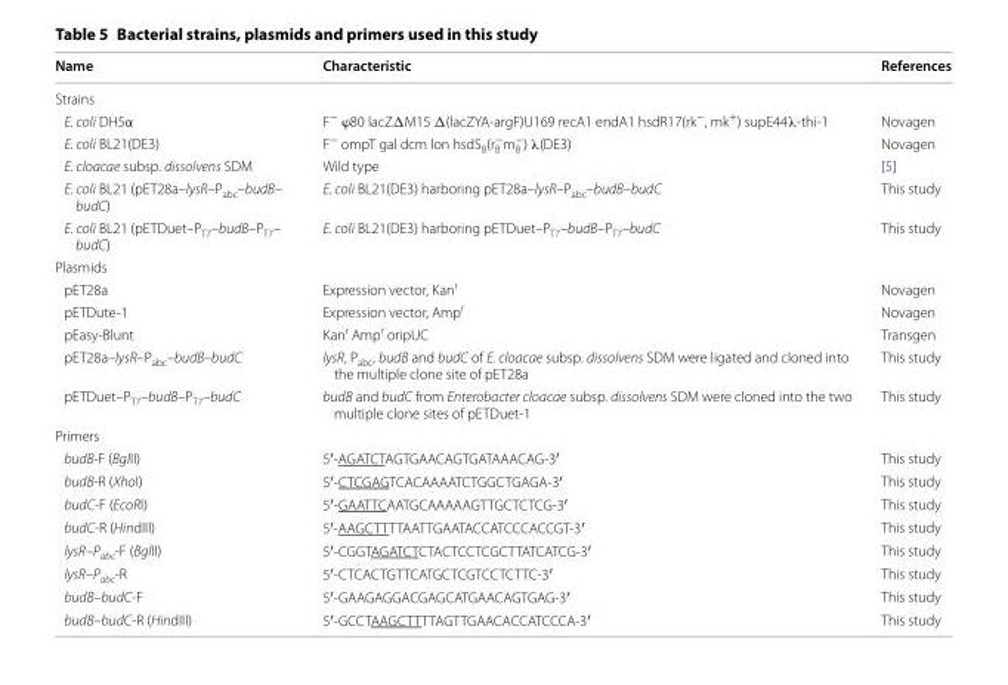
<table><thead><tr><td>Name</td><td>Characteristic</td><td>References</td></tr></thead><tbody><tr><td colspan="3">Strains</td></tr><tr><td>E. coli DH5α</td><td>F<sup>−</sup> ϕ80 lacZΔM15 Δ(lacZYA-argF)U169 recA1 endA1 hsdR17(rk<sup>−</sup>, mk<sup>+</sup>) supE44λ-thi-1</td><td>Novagen</td></tr><tr><td>E. coli BL21(DE3)</td><td>F<sup>−</sup> ompT gal dcm lon hsdS<sub>B</sub>(r<sub>B</sub> <sup>−</sup>m<sub>B</sub> <sup>−</sup>) λ(DE3)</td><td>Novagen</td></tr><tr><td>E. cloacae subsp. dissolvens SDM</td><td>Wild type</td><td>[5]</td></tr><tr><td>E. coli BL21 (pET28a–lysR–P<sub>abc</sub>–budB– budC)</td><td>E. coli BL21(DE3) harboring pET28a–lysR–P<sub>abc</sub>–budB–budC</td><td>This study</td></tr><tr><td>E. coli BL21 (pETDuet–P<sub>T7</sub>–budB–P<sub>T7</sub>– budC)</td><td>E. coli BL21(DE3) harboring pETDuet–P<sub>T7</sub>–budB–P<sub>T7</sub>–budC</td><td>This study</td></tr><tr><td colspan="3">Plasmids</td></tr><tr><td>pET28a</td><td>Expression vector, Kan<sup>r</sup></td><td>Novagen</td></tr><tr><td>pETDute-1</td><td>Expression vector, Amp<sup>r</sup></td><td>Novagen</td></tr><tr><td>pEasy-Blunt</td><td>Kan<sup>r</sup> Amp<sup>r</sup> oripUC</td><td>Transgen</td></tr><tr><td>pET28a–lysR–P<sub>abc</sub>–budB–budC</td><td>lysR, P<sub>abc</sub>, budB and budC of E. cloacae subsp. dissolvens SDM were ligated and cloned into the multiple clone site of pET28a</td><td>This study</td></tr><tr><td>pETDuet–P<sub>T7</sub>–budB–P<sub>T7</sub>–budC</td><td>budB and budC from Enterobacter cloacae subsp. dissolvens SDM were cloned into the two multiple clone sites of pETDuet-1</td><td>This study</td></tr><tr><td colspan="3">Primers</td></tr><tr><td>budB-F (BglII)</td><td>5′-AGATCTAGTGAACAGTGATAAACAG-3′</td><td>This study</td></tr><tr><td>budB-R (XhoI)</td><td>5′-CTCGAGTCACAAAATCTGGCTGAGA-3′</td><td>This study</td></tr><tr><td>budC-F (EcoRI)</td><td>5′-GAATTCAATGCAAAAAGTTGCTCTCG-3′</td><td>This study</td></tr><tr><td>budC-R (HindIII)</td><td>5′-AAGCTTTTAATTGAATACCATCCCACCGT-3′</td><td>This study</td></tr><tr><td>lysR–P<sub>abc</sub>-F (BglII)</td><td>5′-CGGTAGATCTCTACTCCTCGCTTATCATCG-3′</td><td>This study</td></tr><tr><td>lysR–P<sub>abc</sub>-R</td><td>5′-CTCACTGTTCATGCTCGTCCTCTTC-3′</td><td>This study</td></tr><tr><td>budB–budC-F</td><td>5′-GAAGAGGACGAGCATGAACAGTGAG-3′</td><td>This study</td></tr><tr><td>budB–budC-R (HindIII)</td><td>5′-GCCTAAGCTTTTAGTTGAACACCATCCCA-3′</td><td>This study</td></tr></tbody></table>